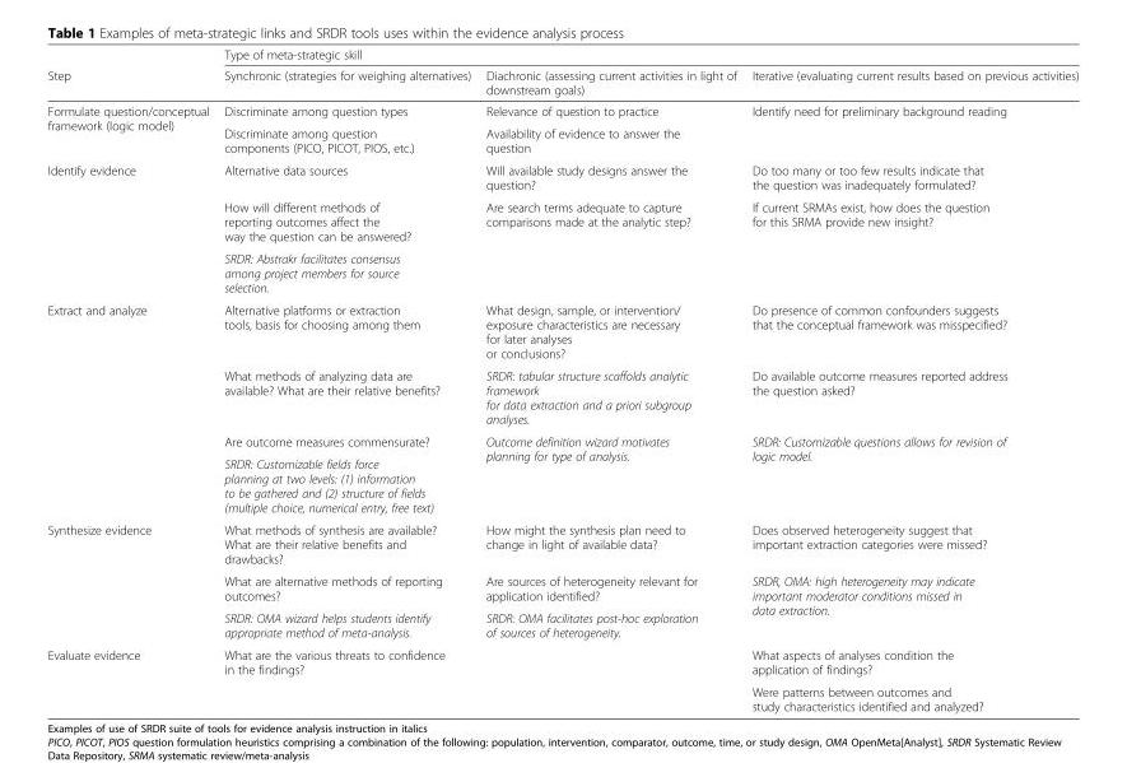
<table><thead><tr><td rowspan="2">Step</td><td colspan="3">Type of meta-strategic skill</td></tr><tr><td>Synchronic (strategies for weighing alternatives)</td><td>Diachronic (assessing current activities in light of downstream goals)</td><td>Iterative (evaluating current results based on previous activities)</td></tr></thead><tbody><tr><td rowspan="2">Formulate question/conceptual framework (logic model)</td><td>Discriminate among question types</td><td>Relevance of question to practice</td><td rowspan="2">Identify need for preliminary background reading</td></tr><tr><td>Discriminate among question components (PICO, PICOT, PIOS, etc.)</td><td>Availability of evidence to answer the question</td></tr><tr><td rowspan="3">Identify evidence</td><td>Alternative data sources</td><td>Will available study designs answer the question?</td><td>Do too many or too few results indicate that the question was inadequately formulated?</td></tr><tr><td>How will different methods of reporting outcomes affect the way the question can be answered?</td><td rowspan="2">Are search terms adequate to capture comparisons made at the analytic step?</td><td rowspan="2">If current SRMAs exist, how does the question for this SRMA provide new insight?</td></tr><tr><td>SRDR: Abstrakr facilitates consensus among project members for source selection.</td></tr><tr><td rowspan="4">Extract and analyze</td><td>Alternative platforms or extraction tools, basis for choosing among them</td><td>What design, sample, or intervention/ exposure characteristics are necessary for later analyses or conclusions?</td><td>Do presence of common confounders suggests that the conceptual framework was misspecified?</td></tr><tr><td>What methods of analyzing data are available? What are their relative benefits?</td><td>SRDR: tabular structure scaffolds analytic framework for data extraction and a priori subgroup analyses.</td><td>Do available outcome measures reported address the question asked?</td></tr><tr><td>Are outcome measures commensurate?</td><td rowspan="2">Outcome definition wizard motivates planning for type of analysis.</td><td rowspan="2">SRDR: Customizable questions allows for revision of logic model.</td></tr><tr><td>SRDR: Customizable fields force planning at two levels: (1) information to be gathered and (2) structure of fields (multiple choice, numerical entry, free text)</td></tr><tr><td rowspan="3">Synthesize evidence</td><td>What methods of synthesis are available? What are their relative benefits and drawbacks?</td><td>How might the synthesis plan need to change in light of available data?</td><td>Does observed heterogeneity suggest that important extraction categories were missed?</td></tr><tr><td>What are alternative methods of reporting outcomes?</td><td>Are sources of heterogeneity relevant for application identified?</td><td rowspan="2">SRDR, OMA: high heterogeneity may indicate important moderator conditions missed in data extraction.</td></tr><tr><td>SRDR: OMA wizard helps students identify appropriate method of meta-analysis.</td><td>SRDR: OMA facilitates post-hoc exploration of sources of heterogeneity.</td></tr><tr><td rowspan="2">Evaluate evidence</td><td rowspan="2">What are the various threats to confidence in the findings?</td><td rowspan="2"></td><td>What aspects of analyses condition the application of findings?</td></tr><tr><td>Were patterns between outcomes and study characteristics identified and analyzed?</td></tr></tbody></table>